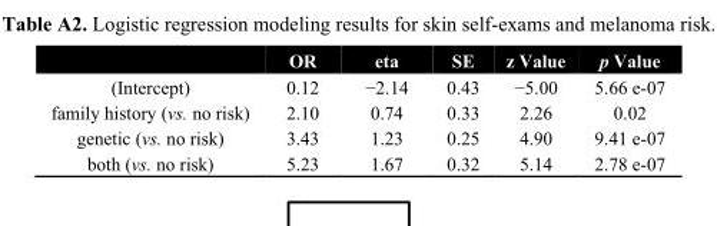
<table><thead><tr><td></td><td>OR</td><td>eta</td><td>SE</td><td>z Value</td><td>p Value</td></tr></thead><tbody><tr><td>(Intercept)</td><td>0.12</td><td>−2.14</td><td>0.43</td><td>−5.00</td><td>5.66 e-07</td></tr><tr><td>family history (vs. no risk)</td><td>2.10</td><td>0.74</td><td>0.33</td><td>2.26</td><td>0.02</td></tr><tr><td>genetic (vs. no risk)</td><td>3.43</td><td>1.23</td><td>0.25</td><td>4.90</td><td>9.41 e-07</td></tr><tr><td>both (vs. no risk)</td><td>5.23</td><td>1.67</td><td>0.32</td><td>5.14</td><td>2.78 e-07</td></tr></tbody></table>